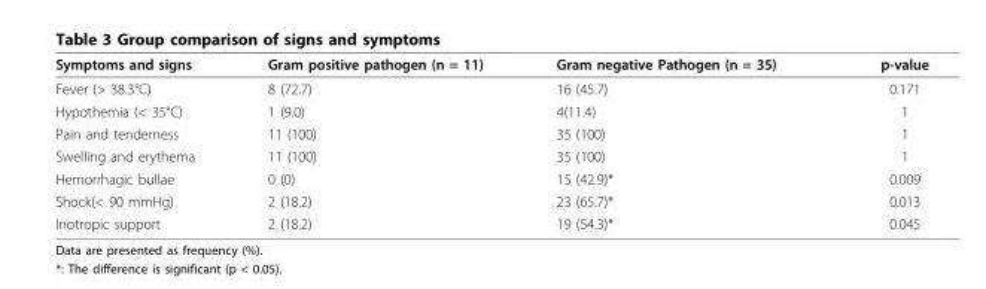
<table><thead><tr><td>Symptoms and signs</td><td>Gram positive pathogen (n = 11)</td><td>Gram negative Pathogen (n = 35)</td><td>p-value</td></tr></thead><tbody><tr><td>Fever (&gt; 38.3°C)</td><td>8 (72.7)</td><td>16 (45.7)</td><td>0.171</td></tr><tr><td>Hypothemia (&lt; 35°C)</td><td>1 (9.0)</td><td>4(11.4)</td><td>1</td></tr><tr><td>Pain and tenderness</td><td>11 (100)</td><td>35 (100)</td><td>1</td></tr><tr><td>Swelling and erythema</td><td>11 (100)</td><td>35 (100)</td><td>1</td></tr><tr><td>Hemorrhagic bullae</td><td>0 (0)</td><td>15 (42.9)*</td><td>0.009</td></tr><tr><td>Shock(&lt; 90 mmHg)</td><td>2 (18.2)</td><td>23 (65.7)*</td><td>0.013</td></tr><tr><td>Inotropic support</td><td>2 (18.2)</td><td>19 (54.3)*</td><td>0.045</td></tr></tbody></table>